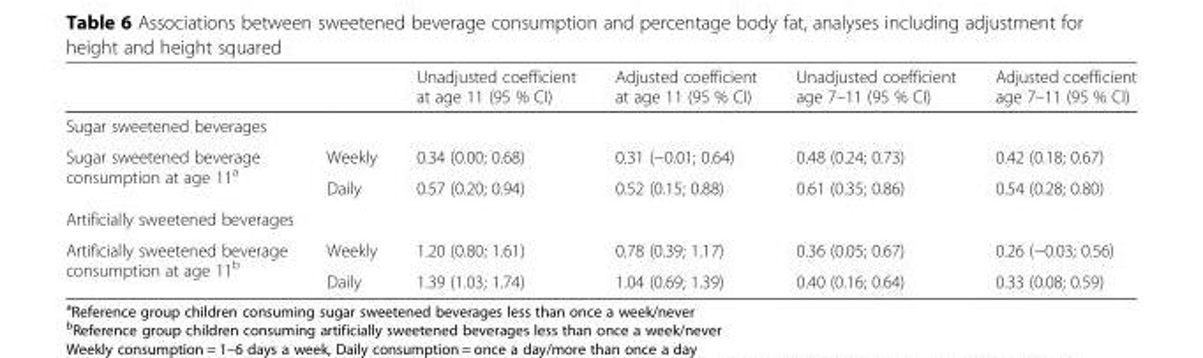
<table><thead><tr><td></td><td></td><td>Unadjusted coefficient at age 11 (95 % CI)</td><td>Adjusted coefficient at age 11 (95 % CI)</td><td>Unadjusted coefficient age 7–11 (95 % CI)</td><td>Adjusted coefficient age 7–11 (95 % CI)</td></tr></thead><tbody><tr><td colspan="6">Sugar sweetened beverages</td></tr><tr><td rowspan="2">Sugar sweetened beverage consumption at age 11<sup>a</sup></td><td>Weekly</td><td>0.34 (0.00; 0.68)</td><td>0.31 (−0.01; 0.64)</td><td>0.48 (0.24; 0.73)</td><td>0.42 (0.18; 0.67)</td></tr><tr><td>Daily</td><td>0.57 (0.20; 0.94)</td><td>0.52 (0.15; 0.88)</td><td>0.61 (0.35; 0.86)</td><td>0.54 (0.28; 0.80)</td></tr><tr><td colspan="6">Artificially sweetened beverages</td></tr><tr><td rowspan="2">Artificially sweetened beverage consumption at age 11<sup>b</sup></td><td>Weekly</td><td>1.20 (0.80; 1.61)</td><td>0.78 (0.39; 1.17)</td><td>0.36 (0.05; 0.67)</td><td>0.26 (−0.03; 0.56)</td></tr><tr><td>Daily</td><td>1.39 (1.03; 1.74)</td><td>1.04 (0.69; 1.39)</td><td>0.40 (0.16; 0.64)</td><td>0.33 (0.08; 0.59)</td></tr></tbody></table>